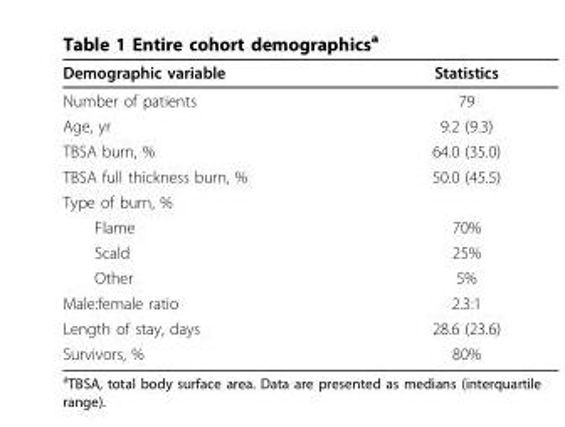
<table><thead><tr><td>Demographic variable</td><td>Statistics</td></tr></thead><tbody><tr><td>Number of patients</td><td>79</td></tr><tr><td>Age, yr</td><td>9.2 (9.3)</td></tr><tr><td>TBSA burn, %</td><td>64.0 (35.0)</td></tr><tr><td>TBSA full thickness burn, %</td><td>50.0 (45.5)</td></tr><tr><td colspan="2">Type of burn, %</td></tr><tr><td>Flame</td><td>70%</td></tr><tr><td>Scald</td><td>25%</td></tr><tr><td>Other</td><td>5%</td></tr><tr><td>Male:female ratio</td><td>2.3:1</td></tr><tr><td>Length of stay, days</td><td>28.6 (23.6)</td></tr><tr><td>Survivors, %</td><td>80%</td></tr></tbody></table>